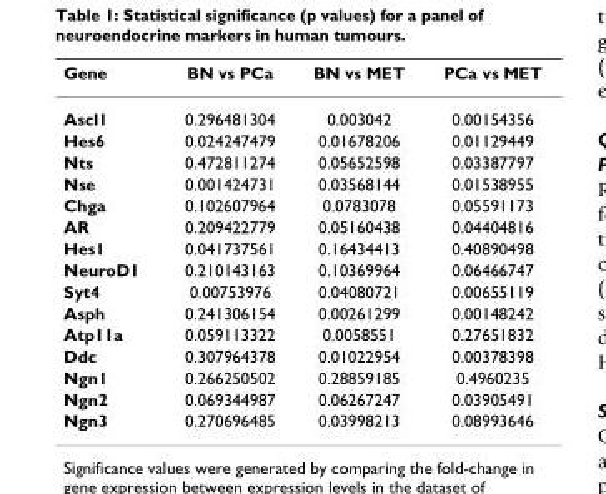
<table><thead><tr><td>Gene</td><td>BN vs PCa</td><td>BN vs MET</td><td>PCa vs MET</td></tr></thead><tbody><tr><td>Ascl1</td><td>0.296481304</td><td>0.003042</td><td>0.00154356</td></tr><tr><td>Hes6</td><td>0.024247479</td><td>0.01678206</td><td>0.01129449</td></tr><tr><td>Nts</td><td>0.472811274</td><td>0.05652598</td><td>0.03387797</td></tr><tr><td>Nse</td><td>0.001424731</td><td>0.03568144</td><td>0.01538955</td></tr><tr><td>Chga</td><td>0.102607964</td><td>0.0783078</td><td>0.05591173</td></tr><tr><td>AR</td><td>0.209422779</td><td>0.05160438</td><td>0.04404816</td></tr><tr><td>Hes1</td><td>0.041737561</td><td>0.16434413</td><td>0.40890498</td></tr><tr><td>NeuroD1</td><td>0.210143163</td><td>0.10369964</td><td>0.06466747</td></tr><tr><td>Syt4</td><td>0.00753976</td><td>0.04080721</td><td>0.00655119</td></tr><tr><td>Asph</td><td>0.241306154</td><td>0.00261299</td><td>0.00148242</td></tr><tr><td>Atp11a</td><td>0.059113322</td><td>0.0058551</td><td>0.27651832</td></tr><tr><td>Ddc</td><td>0.307964378</td><td>0.01022954</td><td>0.00378398</td></tr><tr><td>Ngn1</td><td>0.266250502</td><td>0.28859185</td><td>0.4960235</td></tr><tr><td>Ngn2</td><td>0.069344987</td><td>0.06267247</td><td>0.03905491</td></tr><tr><td>Ngn3</td><td>0.270696485</td><td>0.03998213</td><td>0.08993646</td></tr></tbody></table>